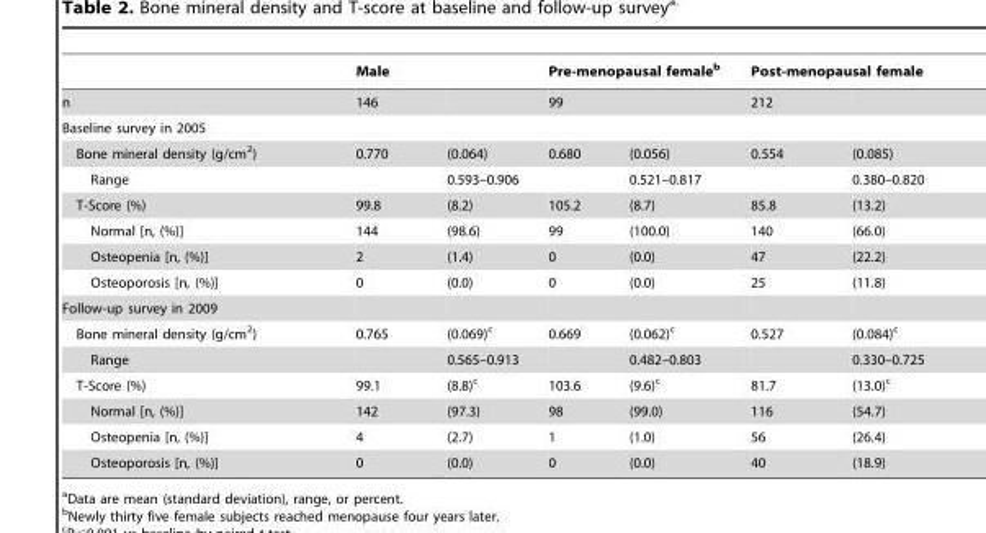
<table><thead><tr><td rowspan="2">n</td><td colspan="2">Male</td><td colspan="2">Pre-menopausal female<sup>b</sup></td><td colspan="2">Post-menopausal female</td></tr><tr><td>146</td><td></td><td>99</td><td></td><td>212</td><td></td></tr></thead><tbody><tr><td colspan="7">Baseline survey in 2005</td></tr><tr><td>Bone mineral density (g/cm<sup>2</sup>)</td><td>0.770</td><td>(0.064)</td><td>0.680</td><td>(0.056)</td><td>0.554</td><td>(0.085)</td></tr><tr><td>Range</td><td></td><td>0.593–0.906</td><td></td><td>0.521–0.817</td><td></td><td>0.380–0.820</td></tr><tr><td>T-Score (%)</td><td>99.8</td><td>(8.2)</td><td>105.2</td><td>(8.7)</td><td>85.8</td><td>(13.2)</td></tr><tr><td>Normal [n, (%)]</td><td>144</td><td>(98.6)</td><td>99</td><td>(100.0)</td><td>140</td><td>(66.0)</td></tr><tr><td>Osteopenia [n, (%)]</td><td>2</td><td>(1.4)</td><td>0</td><td>(0.0)</td><td>47</td><td>(22.2)</td></tr><tr><td>Osteoporosis [n, (%)]</td><td>0</td><td>(0.0)</td><td>0</td><td>(0.0)</td><td>25</td><td>(11.8)</td></tr><tr><td colspan="7">Follow-up survey in 2009</td></tr><tr><td>Bone mineral density (g/cm<sup>2</sup>)</td><td>0.765</td><td>(0.069)<sup>c</sup></td><td>0.669</td><td>(0.062)<sup>c</sup></td><td>0.527</td><td>(0.084)<sup>c</sup></td></tr><tr><td>Range</td><td></td><td>0.565–0.913</td><td></td><td>0.482–0.803</td><td></td><td>0.330–0.725</td></tr><tr><td>T-Score (%)</td><td>99.1</td><td>(8.8)<sup>c</sup></td><td>103.6</td><td>(9.6)<sup>c</sup></td><td>81.7</td><td>(13.0)<sup>c</sup></td></tr><tr><td>Normal [n, (%)]</td><td>142</td><td>(97.3)</td><td>98</td><td>(99.0)</td><td>116</td><td>(54.7)</td></tr><tr><td>Osteopenia [n, (%)]</td><td>4</td><td>(2.7)</td><td>1</td><td>(1.0)</td><td>56</td><td>(26.4)</td></tr><tr><td>Osteoporosis [n, (%)]</td><td>0</td><td>(0.0)</td><td>0</td><td>(0.0)</td><td>40</td><td>(18.9)</td></tr></tbody></table>